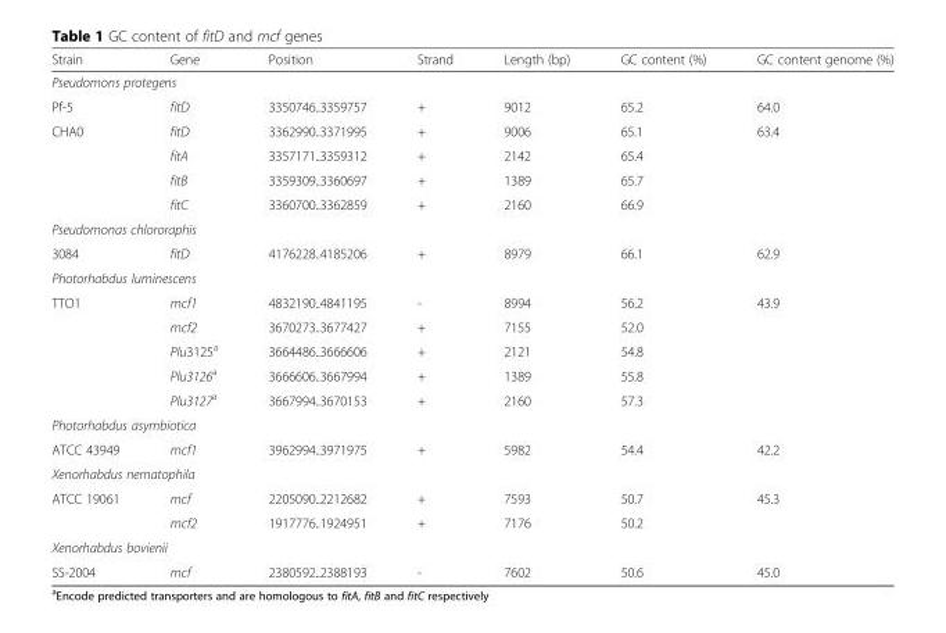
<table><thead><tr><td>Strain</td><td>Gene</td><td>Position</td><td>Strand</td><td>Length (bp)</td><td>GC content (%)</td><td>GC content genome (%)</td></tr></thead><tbody><tr><td colspan="7">Pseudomons protegens</td></tr><tr><td>Pf-5</td><td>fitD</td><td>3350746..3359757</td><td>+</td><td>9012</td><td>65.2</td><td>64.0</td></tr><tr><td rowspan="4">CHA0</td><td>fitD</td><td>3362990..3371995</td><td>+</td><td>9006</td><td>65.1</td><td>63.4</td></tr><tr><td>fitA</td><td>3357171..3359312</td><td>+</td><td>2142</td><td>65.4</td><td></td></tr><tr><td>fitB</td><td>3359309..3360697</td><td>+</td><td>1389</td><td>65.7</td><td></td></tr><tr><td>fitC</td><td>3360700..3362859</td><td>+</td><td>2160</td><td>66.9</td><td></td></tr><tr><td colspan="7">Pseudomonas chlororaphis</td></tr><tr><td>3084</td><td>fitD</td><td>4176228..4185206</td><td>+</td><td>8979</td><td>66.1</td><td>62.9</td></tr><tr><td colspan="7">Photorhabdus luminescens</td></tr><tr><td rowspan="5">TTO1</td><td>mcf1</td><td>4832190..4841195</td><td>-</td><td>8994</td><td>56.2</td><td>43.9</td></tr><tr><td>mcf2</td><td>3670273..3677427</td><td>+</td><td>7155</td><td>52.0</td><td></td></tr><tr><td>Plu3125<sup>a</sup></td><td>3664486..3666606</td><td>+</td><td>2121</td><td>54.8</td><td></td></tr><tr><td>Plu3126<sup>a</sup></td><td>3666606..3667994</td><td>+</td><td>1389</td><td>55.8</td><td></td></tr><tr><td>Plu3127<sup>a</sup></td><td>3667994..3670153</td><td>+</td><td>2160</td><td>57.3</td><td></td></tr><tr><td colspan="7">Photorhabdus asymbiotica</td></tr><tr><td>ATCC 43949</td><td>mcf1</td><td>3962994..3971975</td><td>+</td><td>5982</td><td>54.4</td><td>42.2</td></tr><tr><td colspan="7">Xenorhabdus nematophila</td></tr><tr><td rowspan="2">ATCC 19061</td><td>mcf</td><td>2205090..2212682</td><td>+</td><td>7593</td><td>50.7</td><td>45.3</td></tr><tr><td>mcf2</td><td>1917776..1924951</td><td>+</td><td>7176</td><td>50.2</td><td></td></tr><tr><td colspan="7">Xenorhabdus bovienii</td></tr><tr><td>SS-2004</td><td>mcf</td><td>2380592..2388193</td><td>-</td><td>7602</td><td>50.6</td><td>45.0</td></tr></tbody></table>